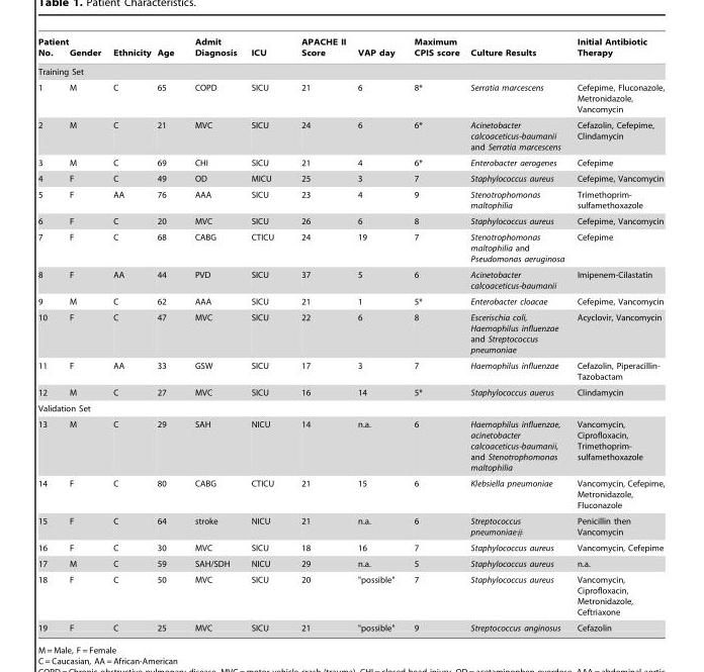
<table><thead><tr><td>Patient No.</td><td>Gender</td><td>Ethnicity</td><td>Age</td><td>Admit Diagnosis</td><td>ICU</td><td>APACHE II Score</td><td>VAP day</td><td>Maximum CPIS score</td><td>Culture Results</td><td>Initial Antibiotic Therapy</td></tr></thead><tbody><tr><td colspan="11">Training Set</td></tr><tr><td>1</td><td>M</td><td>C</td><td>65</td><td>COPD</td><td>SICU</td><td>21</td><td>6</td><td>8*</td><td>Serratia marcescens</td><td>Cefepime, Fluconazole, Metronidazole, Vancomycin</td></tr><tr><td>2</td><td>M</td><td>C</td><td>21</td><td>MVC</td><td>SICU</td><td>24</td><td>6</td><td>6*</td><td>Acinetobacter calcoaceticus-baumanii and Serratia marcescens</td><td>Cefazolin, Cefepime, Clindamycin</td></tr><tr><td>3</td><td>M</td><td>C</td><td>69</td><td>CHI</td><td>SICU</td><td>21</td><td>4</td><td>6*</td><td>Enterobacter aerogenes</td><td>Cefepime</td></tr><tr><td>4</td><td>F</td><td>C</td><td>49</td><td>OD</td><td>MICU</td><td>25</td><td>3</td><td>7</td><td>Staphylococcus aureus</td><td>Cefepime, Vancomycin</td></tr><tr><td>5</td><td>F</td><td>AA</td><td>76</td><td>AAA</td><td>SICU</td><td>23</td><td>4</td><td>9</td><td>Stenotrophomonas maltophilia</td><td>Trimethoprim- sulfamethoxazole</td></tr><tr><td>6</td><td>F</td><td>C</td><td>20</td><td>MVC</td><td>SICU</td><td>26</td><td>6</td><td>8</td><td>Staphylococcus aureus</td><td>Cefepime, Vancomycin</td></tr><tr><td>7</td><td>F</td><td>C</td><td>68</td><td>CABG</td><td>CTICU</td><td>24</td><td>19</td><td>7</td><td>Stenotrophomonas maltophilia and Pseudomonas aeruginosa</td><td>Cefepime</td></tr><tr><td>8</td><td>F</td><td>AA</td><td>44</td><td>PVD</td><td>SICU</td><td>37</td><td>5</td><td>6</td><td>Acinetobacter calcoaceticus-baumanii</td><td>Imipenem-Cilastatin</td></tr><tr><td>9</td><td>M</td><td>C</td><td>62</td><td>AAA</td><td>SICU</td><td>21</td><td>1</td><td>5*</td><td>Enterobacter cloacae</td><td>Cefepime, Vancomycin</td></tr><tr><td>10</td><td>F</td><td>C</td><td>47</td><td>MVC</td><td>SICU</td><td>22</td><td>6</td><td>8</td><td>Escerischia coli, Haemophilus influenzae and Streptococcus pneumoniae</td><td>Acyclovir, Vancomycin</td></tr><tr><td>11</td><td>F</td><td>AA</td><td>33</td><td>GSW</td><td>SICU</td><td>17</td><td>3</td><td>7</td><td>Haemophilus influenzae</td><td>Cefazolin, Piperacillin- Tazobactam</td></tr><tr><td>12</td><td>M</td><td>C</td><td>27</td><td>MVC</td><td>SICU</td><td>16</td><td>14</td><td>5*</td><td>Staphylococcus auerus</td><td>Clindamycin</td></tr><tr><td colspan="11">Validation Set</td></tr><tr><td>13</td><td>M</td><td>C</td><td>29</td><td>SAH</td><td>NICU</td><td>14</td><td>n.a.</td><td>6</td><td>Haemophilus influenzae, acinetobacter calcoaceticus-baumanii, and Stenotrophomonas maltophilia</td><td>Vancomycin, Ciprofloxacin, Trimethoprim- sulfamethoxazole</td></tr><tr><td>14</td><td>F</td><td>C</td><td>80</td><td>CABG</td><td>CTICU</td><td>21</td><td>15</td><td>6</td><td>Klebsiella pneumoniae</td><td>Vancomycin, Cefepime, Metronidazole, Fluconazole</td></tr><tr><td>15</td><td>F</td><td>C</td><td>64</td><td>stroke</td><td>NICU</td><td>21</td><td>n.a.</td><td>6</td><td>Streptococcus pneumoniae#</td><td>Penicillin then Vancomycin</td></tr><tr><td>16</td><td>F</td><td>C</td><td>30</td><td>MVC</td><td>SICU</td><td>18</td><td>16</td><td>7</td><td>Staphylococcus aureus</td><td>Vancomycin, Cefepime</td></tr><tr><td>17</td><td>M</td><td>C</td><td>59</td><td>SAH/SDH</td><td>NICU</td><td>29</td><td>n.a.</td><td>5</td><td>Staphylococcus aureus</td><td>n.a.</td></tr><tr><td>18</td><td>F</td><td>C</td><td>50</td><td>MVC</td><td>SICU</td><td>20</td><td>&quot;possible&quot;</td><td>7</td><td>Staphylococcus aureus</td><td>Vancomycin, Ciprofloxacin, Metronidazole, Ceftriaxone</td></tr><tr><td>19</td><td>F</td><td>C</td><td>25</td><td>MVC</td><td>SICU</td><td>21</td><td>&quot;possible&quot;</td><td>9</td><td>Streptococcus anginosus</td><td>Cefazolin</td></tr></tbody></table>